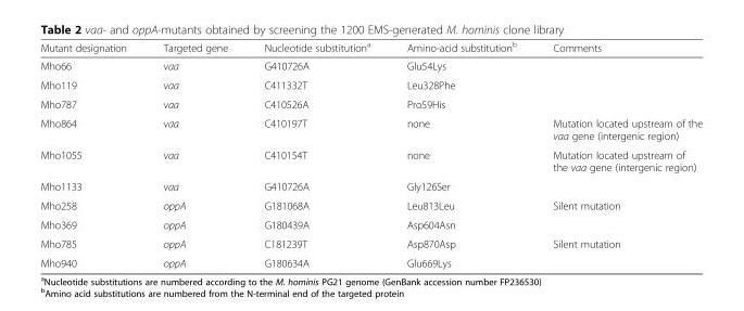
<table><thead><tr><td>Mutant designation</td><td>Targeted gene</td><td>Nucleotide substitution<sup>a</sup></td><td>Amino-acid substitution<sup>b</sup></td><td>Comments</td></tr></thead><tbody><tr><td>Mho66</td><td>vaa</td><td>G410726A</td><td>Glu54Lys</td><td></td></tr><tr><td>Mho119</td><td>vaa</td><td>C411332T</td><td>Leu328Phe</td><td></td></tr><tr><td>Mho787</td><td>vaa</td><td>C410526A</td><td>Pro59His</td><td></td></tr><tr><td>Mho864</td><td>vaa</td><td>C410197T</td><td>none</td><td>Mutation located upstream of the vaa gene (intergenic region)</td></tr><tr><td>Mho1055</td><td>vaa</td><td>C410154T</td><td>none</td><td>Mutation located upstream of the vaa gene (intergenic region)</td></tr><tr><td>Mho1133</td><td>vaa</td><td>G410726A</td><td>Gly126Ser</td><td></td></tr><tr><td>Mho258</td><td>oppA</td><td>G181068A</td><td>Leu813Leu</td><td>Silent mutation</td></tr><tr><td>Mho369</td><td>oppA</td><td>G180439A</td><td>Asp604Asn</td><td></td></tr><tr><td>Mho785</td><td>oppA</td><td>C181239T</td><td>Asp870Asp</td><td>Silent mutation</td></tr><tr><td>Mho940</td><td>oppA</td><td>G180634A</td><td>Glu669Lys</td><td></td></tr></tbody></table>